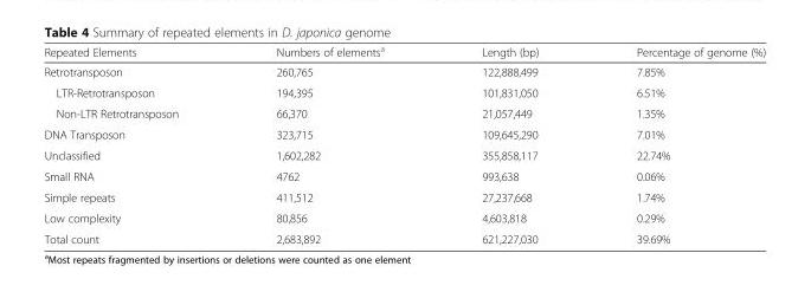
<table><thead><tr><td>Repeated Elements</td><td>Numbers of elements<sup>a</sup></td><td>Length (bp)</td><td>Percentage of genome (%)</td></tr></thead><tbody><tr><td>Retrotransposon</td><td>260,765</td><td>122,888,499</td><td>7.85%</td></tr><tr><td>LTR-Retrotransposon</td><td>194,395</td><td>101,831,050</td><td>6.51%</td></tr><tr><td>Non-LTR Retrotransposon</td><td>66,370</td><td>21,057,449</td><td>1.35%</td></tr><tr><td>DNA Transposon</td><td>323,715</td><td>109,645,290</td><td>7.01%</td></tr><tr><td>Unclassified</td><td>1,602,282</td><td>355,858,117</td><td>22.74%</td></tr><tr><td>Small RNA</td><td>4762</td><td>993,638</td><td>0.06%</td></tr><tr><td>Simple repeats</td><td>411,512</td><td>27,237,668</td><td>1.74%</td></tr><tr><td>Low complexity</td><td>80,856</td><td>4,603,818</td><td>0.29%</td></tr><tr><td>Total count</td><td>2,683,892</td><td>621,227,030</td><td>39.69%</td></tr></tbody></table>